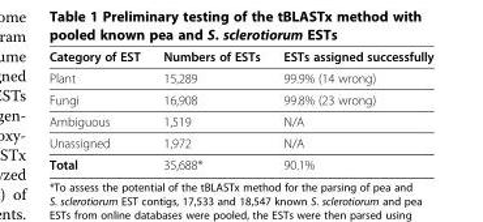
<table><thead><tr><td>Category of EST</td><td>Numbers of ESTs</td><td>ESTs assigned successfully</td></tr></thead><tbody><tr><td>Plant</td><td>15,289</td><td>99.9% (14 wrong)</td></tr><tr><td>Fungi</td><td>16,908</td><td>99.8% (23 wrong)</td></tr><tr><td>Ambiguous</td><td>1,519</td><td>N/A</td></tr><tr><td>Unassigned</td><td>1,972</td><td>N/A</td></tr><tr><td>Total</td><td>35,688*</td><td>90.1%</td></tr></tbody></table>